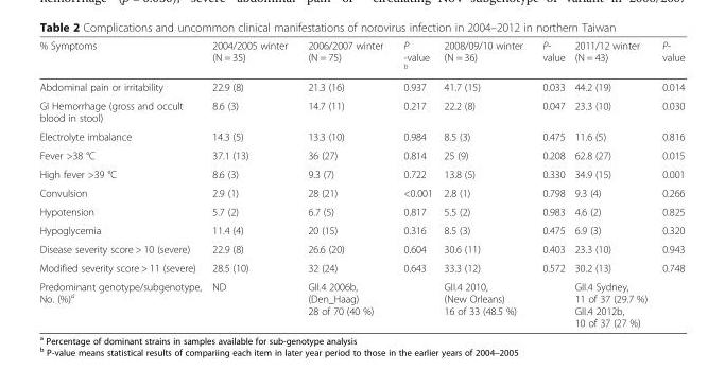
<table><thead><tr><td>% Symptoms</td><td>2004/2005 winter (N = 35)</td><td>2006/2007 winter (N = 75)</td><td>P -value <sup>b</sup></td><td>2008/09/10 winter (N = 36)</td><td>P- value</td><td>2011/12 winter (N = 43)</td><td>P- value</td></tr></thead><tbody><tr><td>Abdominal pain or irritability</td><td>22.9 (8)</td><td>21.3 (16)</td><td>0.937</td><td>41.7 (15)</td><td>0.033</td><td>44.2 (19)</td><td>0.014</td></tr><tr><td>GI Hemorrhage (gross and occult blood in stool)</td><td>8.6 (3)</td><td>14.7 (11)</td><td>0.217</td><td>22.2 (8)</td><td>0.047</td><td>23.3 (10)</td><td>0.030</td></tr><tr><td>Electrolyte imbalance</td><td>14.3 (5)</td><td>13.3 (10)</td><td>0.984</td><td>8.5 (3)</td><td>0.475</td><td>11.6 (5)</td><td>0.816</td></tr><tr><td>Fever &gt;38 °C</td><td>37.1 (13)</td><td>36 (27)</td><td>0.814</td><td>25 (9)</td><td>0.208</td><td>62.8 (27)</td><td>0.015</td></tr><tr><td>High fever &gt;39 °C</td><td>8.6 (3)</td><td>9.3 (7)</td><td>0.722</td><td>13.8 (5)</td><td>0.330</td><td>34.9 (15)</td><td>0.001</td></tr><tr><td>Convulsion</td><td>2.9 (1)</td><td>28 (21)</td><td>&lt;0.001</td><td>2.8 (1)</td><td>0.798</td><td>9.3 (4)</td><td>0.266</td></tr><tr><td>Hypotension</td><td>5.7 (2)</td><td>6.7 (5)</td><td>0.817</td><td>5.5 (2)</td><td>0.983</td><td>4.6 (2)</td><td>0.825</td></tr><tr><td>Hypoglycemia</td><td>11.4 (4)</td><td>20 (15)</td><td>0.316</td><td>8.5 (3)</td><td>0.475</td><td>6.9 (3)</td><td>0.320</td></tr><tr><td>Disease severity score &gt; 10 (severe)</td><td>22.9 (8)</td><td>26.6 (20)</td><td>0.604</td><td>30.6 (11)</td><td>0.403</td><td>23.3 (10)</td><td>0.943</td></tr><tr><td>Modified severity score &gt; 11 (severe)</td><td>28.5 (10)</td><td>32 (24)</td><td>0.643</td><td>33.3 (12)</td><td>0.572</td><td>30.2 (13)</td><td>0.748</td></tr><tr><td>Predominant genotype/subgenotype, No. (%)<sup>a</sup></td><td>ND</td><td>GII.4 2006b, (Den_Haag) 28 of 70 (40 %)</td><td></td><td>GII.4 2010, (New Orleans) 16 of 33 (48.5 %)</td><td></td><td>GII.4 Sydney, 11 of 37 (29.7 %) GII.4 2012b, 10 of 37 (27 %)</td><td></td></tr></tbody></table>